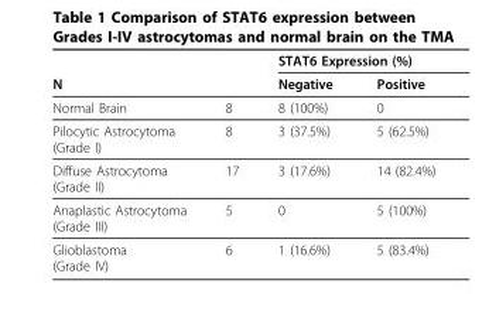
<table><thead><tr><td></td><td></td><td colspan="2">STAT6 Expression (%)</td></tr><tr><td colspan="2">N</td><td>Negative</td><td>Positive</td></tr></thead><tbody><tr><td>Normal Brain</td><td>8</td><td>8 (100%)</td><td>0</td></tr><tr><td>Pilocytic Astrocytoma (Grade I)</td><td>8</td><td>3 (37.5%)</td><td>5 (62.5%)</td></tr><tr><td>Diffuse Astrocytoma (Grade II)</td><td>17</td><td>3 (17.6%)</td><td>14 (82.4%)</td></tr><tr><td>Anaplastic Astrocytoma (Grade III)</td><td>5</td><td>0</td><td>5 (100%)</td></tr><tr><td>Glioblastoma (Grade IV)</td><td>6</td><td>1 (16.6%)</td><td>5 (83.4%)</td></tr></tbody></table>